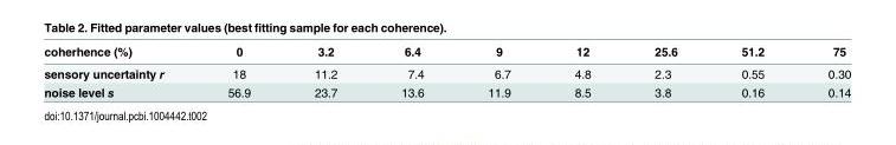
<table><thead><tr><td>coherhence (%)</td><td>0</td><td>3.2</td><td>6.4</td><td>9</td><td>12</td><td>25.6</td><td>51.2</td><td>75</td></tr></thead><tbody><tr><td>sensory uncertainty r</td><td>18</td><td>11.2</td><td>7.4</td><td>6.7</td><td>4.8</td><td>2.3</td><td>0.55</td><td>0.30</td></tr><tr><td>noise level s</td><td>56.9</td><td>23.7</td><td>13.6</td><td>11.9</td><td>8.5</td><td>3.8</td><td>0.16</td><td>0.14</td></tr></tbody></table>